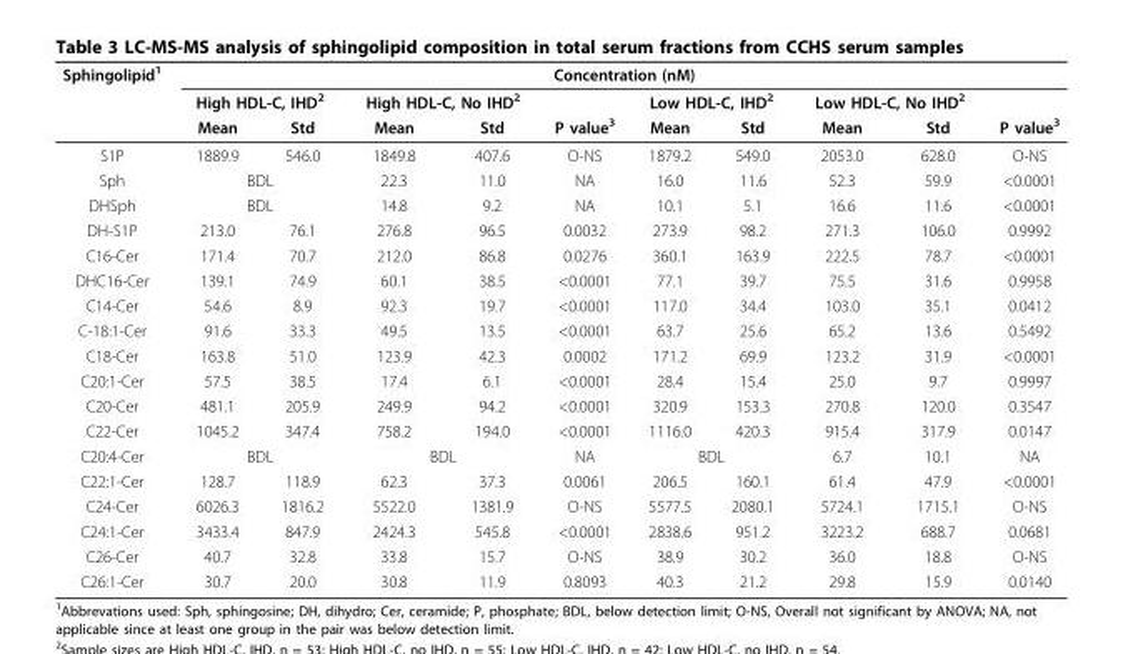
<table><thead><tr><td rowspan="3">Sphingolipid<sup>1</sup></td><td colspan="10">Concentration (nM)</td></tr><tr><td colspan="2">High HDL-C, IHD<sup>2</sup></td><td colspan="2">High HDL-C, No IHD<sup>2</sup></td><td rowspan="2">P value<sup>3</sup></td><td colspan="2">Low HDL-C, IHD<sup>2</sup></td><td colspan="2">Low HDL-C, No IHD<sup>2</sup></td><td rowspan="2">P value<sup>3</sup></td></tr><tr><td>Mean</td><td>Std</td><td>Mean</td><td>Std</td><td>Mean</td><td>Std</td><td>Mean</td><td>Std</td></tr></thead><tbody><tr><td>S1P</td><td>1889.9</td><td>546.0</td><td>1849.8</td><td>407.6</td><td>O-NS</td><td>1879.2</td><td>549.0</td><td>2053.0</td><td>628.0</td><td>O-NS</td></tr><tr><td>Sph</td><td colspan="2">BDL</td><td>22.3</td><td>11.0</td><td>NA</td><td>16.0</td><td>11.6</td><td>52.3</td><td>59.9</td><td>&lt;0.0001</td></tr><tr><td>DHSph</td><td colspan="2">BDL</td><td>14.8</td><td>9.2</td><td>NA</td><td>10.1</td><td>5.1</td><td>16.6</td><td>11.6</td><td>&lt;0.0001</td></tr><tr><td>DH-S1P</td><td>213.0</td><td>76.1</td><td>276.8</td><td>96.5</td><td>0.0032</td><td>273.9</td><td>98.2</td><td>271.3</td><td>106.0</td><td>0.9992</td></tr><tr><td>C16-Cer</td><td>171.4</td><td>70.7</td><td>212.0</td><td>86.8</td><td>0.0276</td><td>360.1</td><td>163.9</td><td>222.5</td><td>78.7</td><td>&lt;0.0001</td></tr><tr><td>DHC16-Cer</td><td>139.1</td><td>74.9</td><td>60.1</td><td>38.5</td><td>&lt;0.0001</td><td>77.1</td><td>39.7</td><td>75.5</td><td>31.6</td><td>0.9958</td></tr><tr><td>C14-Cer</td><td>54.6</td><td>8.9</td><td>92.3</td><td>19.7</td><td>&lt;0.0001</td><td>117.0</td><td>34.4</td><td>103.0</td><td>35.1</td><td>0.0412</td></tr><tr><td>C-18:1-Cer</td><td>91.6</td><td>33.3</td><td>49.5</td><td>13.5</td><td>&lt;0.0001</td><td>63.7</td><td>25.6</td><td>65.2</td><td>13.6</td><td>0.5492</td></tr><tr><td>C18-Cer</td><td>163.8</td><td>51.0</td><td>123.9</td><td>42.3</td><td>0.0002</td><td>171.2</td><td>69.9</td><td>123.2</td><td>31.9</td><td>&lt;0.0001</td></tr><tr><td>C20:1-Cer</td><td>57.5</td><td>38.5</td><td>17.4</td><td>6.1</td><td>&lt;0.0001</td><td>28.4</td><td>15.4</td><td>25.0</td><td>9.7</td><td>0.9997</td></tr><tr><td>C20-Cer</td><td>481.1</td><td>205.9</td><td>249.9</td><td>94.2</td><td>&lt;0.0001</td><td>320.9</td><td>153.3</td><td>270.8</td><td>120.0</td><td>0.3547</td></tr><tr><td>C22-Cer</td><td>1045.2</td><td>347.4</td><td>758.2</td><td>194.0</td><td>&lt;0.0001</td><td>1116.0</td><td>420.3</td><td>915.4</td><td>317.9</td><td>0.0147</td></tr><tr><td>C20:4-Cer</td><td colspan="2">BDL</td><td colspan="2">BDL</td><td>NA</td><td colspan="2">BDL</td><td>6.7</td><td>10.1</td><td>NA</td></tr><tr><td>C22:1-Cer</td><td>128.7</td><td>118.9</td><td>62.3</td><td>37.3</td><td>0.0061</td><td>206.5</td><td>160.1</td><td>61.4</td><td>47.9</td><td>&lt;0.0001</td></tr><tr><td>C24-Cer</td><td>6026.3</td><td>1816.2</td><td>5522.0</td><td>1381.9</td><td>O-NS</td><td>5577.5</td><td>2080.1</td><td>5724.1</td><td>1715.1</td><td>O-NS</td></tr><tr><td>C24:1-Cer</td><td>3433.4</td><td>847.9</td><td>2424.3</td><td>545.8</td><td>&lt;0.0001</td><td>2838.6</td><td>951.2</td><td>3223.2</td><td>688.7</td><td>0.0681</td></tr><tr><td>C26-Cer</td><td>40.7</td><td>32.8</td><td>33.8</td><td>15.7</td><td>O-NS</td><td>38.9</td><td>30.2</td><td>36.0</td><td>18.8</td><td>O-NS</td></tr><tr><td>C26:1-Cer</td><td>30.7</td><td>20.0</td><td>30.8</td><td>11.9</td><td>0.8093</td><td>40.3</td><td>21.2</td><td>29.8</td><td>15.9</td><td>0.0140</td></tr></tbody></table>